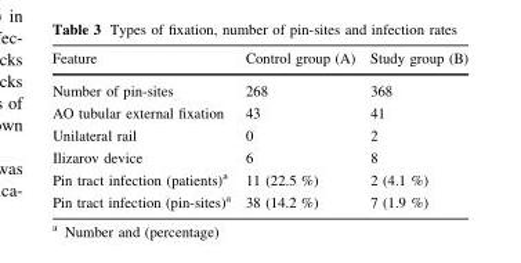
<table><thead><tr><td>Feature</td><td>Control group (A)</td><td>Study group (B)</td></tr></thead><tbody><tr><td>Number of pin-sites</td><td>268</td><td>368</td></tr><tr><td>AO tubular external fixation</td><td>43</td><td>41</td></tr><tr><td>Unilateral rail</td><td>0</td><td>2</td></tr><tr><td>Ilizarov device</td><td>6</td><td>8</td></tr><tr><td>Pin tract infection (patients)<sup>a</sup></td><td>11 (22.5 %)</td><td>2 (4.1 %)</td></tr><tr><td>Pin tract infection (pin-sites)<sup>a</sup></td><td>38 (14.2 %)</td><td>7 (1.9 %)</td></tr></tbody></table>